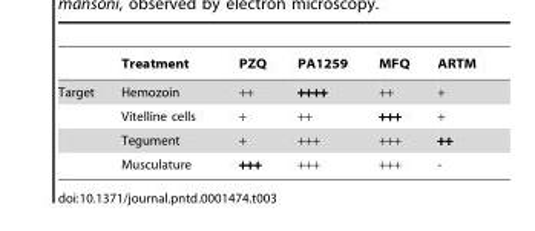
<table><thead><tr><td></td><td>Treatment</td><td>PZQ</td><td>PA1259</td><td>MFQ</td><td>ARTM</td></tr></thead><tbody><tr><td rowspan="4">Target</td><td>Hemozoin</td><td>++</td><td>+++++</td><td>++</td><td>+</td></tr><tr><td>Vitelline cells</td><td>+</td><td>++</td><td>++++</td><td>+</td></tr><tr><td>Tegument</td><td>+</td><td>+++</td><td>+++</td><td>+++</td></tr><tr><td>Musculature</td><td>+++</td><td>+++</td><td>+++</td><td>-</td></tr></tbody></table>